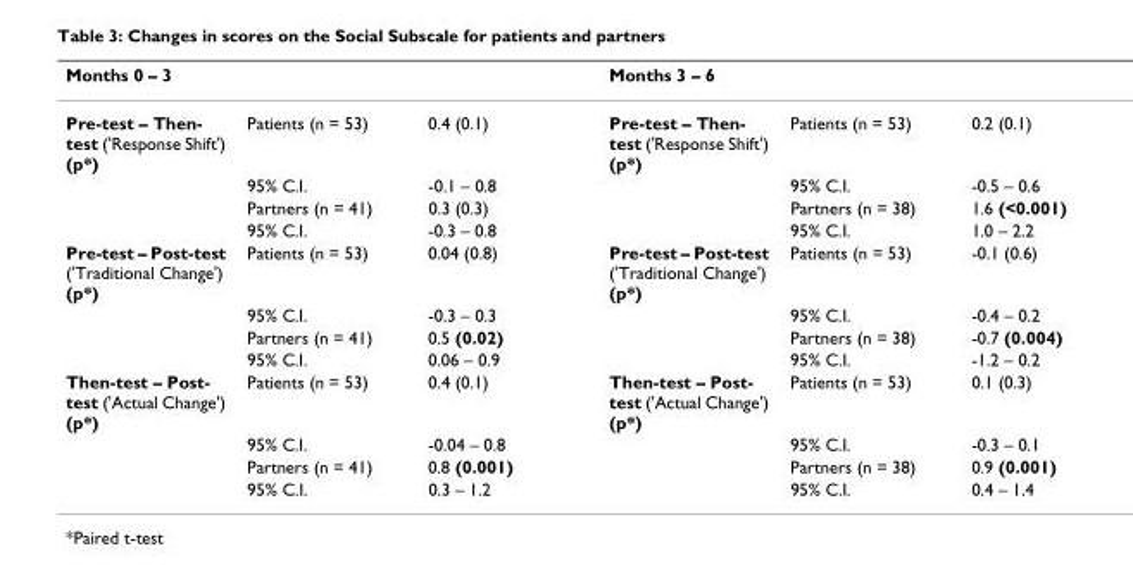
<table><thead><tr><td>Months 0 – 3</td><td></td><td></td><td>Months 3 – 6</td><td></td><td></td></tr></thead><tbody><tr><td rowspan="4">Pre-test – Then- test (&#x27;Response Shift&#x27;) (p*)</td><td>Patients (n = 53)</td><td>0.4 (0.1)</td><td>Pre-test – Then- test (&#x27;Response Shift&#x27;) (p*)</td><td>Patients (n = 53)</td><td>0.2 (0.1)</td></tr><tr><td>95% C.I.</td><td>-0.1 – 0.8</td><td></td><td>95% C.I.</td><td>-0.5 – 0.6</td></tr><tr><td>Partners (n = 41)</td><td>0.3 (0.3)</td><td></td><td>Partners (n = 38)</td><td>1.6 (&lt;0.001)</td></tr><tr><td>95% C.I.</td><td>-0.3 – 0.8</td><td></td><td>95% C.I.</td><td>1.0 – 2.2</td></tr><tr><td rowspan="4">Pre-test – Post-test (&#x27;Traditional Change&#x27;) (p*)</td><td>Patients (n = 53)</td><td>0.04 (0.8)</td><td>Pre-test – Post-test (&#x27;Traditional Change&#x27;) (p*)</td><td>Patients (n = 53)</td><td>-0.1 (0.6)</td></tr><tr><td>95% C.I.</td><td>-0.3 – 0.3</td><td></td><td>95% C.I.</td><td>-0.4 – 0.2</td></tr><tr><td>Partners (n = 41)</td><td>0.5 (0.02)</td><td></td><td>Partners (n = 38)</td><td>-0.7 (0.004)</td></tr><tr><td>95% C.I.</td><td>0.06 – 0.9</td><td></td><td>95% C.I.</td><td>-1.2 – 0.2</td></tr><tr><td rowspan="4">Then-test – Post- test (&#x27;Actual Change&#x27;) (p*)</td><td>Patients (n = 53)</td><td>0.4 (0.1)</td><td>Then-test – Post- test (&#x27;Actual Change&#x27;) (p*)</td><td>Patients (n = 53)</td><td>0.1 (0.3)</td></tr><tr><td>95% C.I.</td><td>-0.04 – 0.8</td><td></td><td>95% C.I.</td><td>-0.3 – 0.1</td></tr><tr><td>Partners (n = 41)</td><td>0.8 (0.001)</td><td></td><td>Partners (n = 38)</td><td>0.9 (0.001)</td></tr><tr><td>95% C.I.</td><td>0.3 – 1.2</td><td></td><td>95% C.I.</td><td>0.4 – 1.4</td></tr></tbody></table>